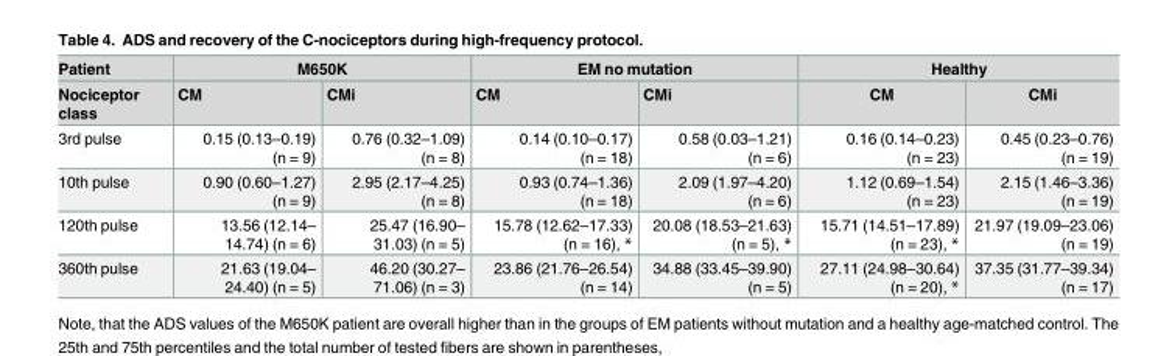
<table><thead><tr><td rowspan="2">Patient Nociceptor class</td><td colspan="2">M650K</td><td colspan="2">EM no mutation</td><td colspan="2">Healthy</td></tr><tr><td>CM</td><td>CMi</td><td>CM</td><td>CMi</td><td>CM</td><td>CMi</td></tr></thead><tbody><tr><td>3rd pulse</td><td>0.15 (0.13–0.19) (n = 9)</td><td>0.76 (0.32–1.09) (n = 8)</td><td>0.14 (0.10–0.17) (n = 18)</td><td>0.58 (0.03–1.21) (n = 6)</td><td>0.16 (0.14–0.23) (n = 23)</td><td>0.45 (0.23–0.76) (n = 19)</td></tr><tr><td>10th pulse</td><td>0.90 (0.60–1.27) (n = 9)</td><td>2.95 (2.17–4.25) (n = 8)</td><td>0.93 (0.74–1.36) (n = 18)</td><td>2.09 (1.97–4.20) (n = 6)</td><td>1.12 (0.69–1.54) (n = 23)</td><td>2.15 (1.46–3.36) (n = 19)</td></tr><tr><td>120th pulse</td><td>13.56 (12.14– 14.74) (n = 6)</td><td>25.47 (16.90– 31.03) (n = 5)</td><td>15.78 (12.62–17.33) (n = 16), *</td><td>20.08 (18.53–21.63) (n = 5), *</td><td>15.71 (14.51–17.89) (n = 23), *</td><td>21.97 (19.09–23.06) (n = 19)</td></tr><tr><td>360th pulse</td><td>21.63 (19.04– 24.40) (n = 5)</td><td>46.20 (30.27– 71.06) (n = 3)</td><td>23.86 (21.76–26.54) (n = 14)</td><td>34.88 (33.45–39.90) (n = 5)</td><td>27.11 (24.98–30.64) (n = 20), *</td><td>37.35 (31.77–39.34) (n = 17)</td></tr></tbody></table>